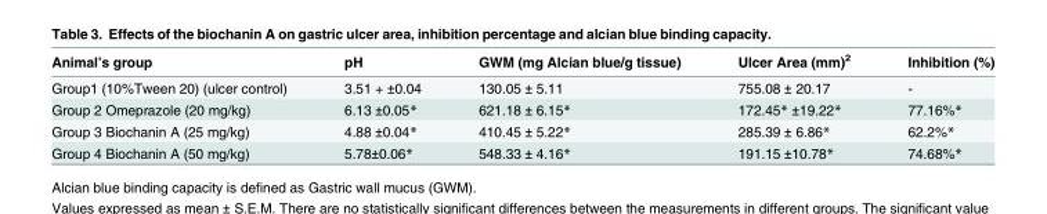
<table><thead><tr><td>Animal’s group</td><td>pH</td><td>GWM (mg Alcian blue/g tissue)</td><td>Ulcer Area (mm)2</td><td>Inhibition (%)</td></tr></thead><tbody><tr><td>Group1 (10%Tween 20) (ulcer control)</td><td>3.51 + ±0.04</td><td>130.05 ± 5.11</td><td>755.08 ± 20.17</td><td>-</td></tr><tr><td>Group 2 Omeprazole (20 mg/kg)</td><td>6.13 ±0.05*</td><td>621.18 ± 6.15*</td><td>172.45* ±19.22*</td><td>77.16%*</td></tr><tr><td>Group 3 Biochanin A (25 mg/kg)</td><td>4.88 ±0.04*</td><td>410.45 ± 5.22*</td><td>285.39 ± 6.86*</td><td>62.2%*</td></tr><tr><td>Group 4 Biochanin A (50 mg/kg)</td><td>5.78±0.06*</td><td>548.33 ± 4.16*</td><td>191.15 ±10.78*</td><td>74.68%*</td></tr></tbody></table>